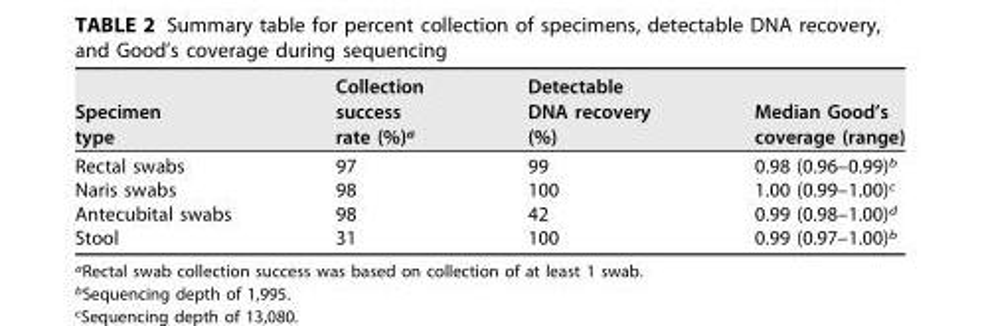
<table><thead><tr><td>Specimen type</td><td>Collection success rate (%)<sup>a</sup></td><td>Detectable DNA recovery (%)</td><td>Median Good’s coverage (range)</td></tr></thead><tbody><tr><td>Rectal swabs</td><td>97</td><td>99</td><td>0.98 (0.96–0.99)<sup>b</sup></td></tr><tr><td>Naris swabs</td><td>98</td><td>100</td><td>1.00 (0.99–1.00)<sup>c</sup></td></tr><tr><td>Antecubital swabs</td><td>98</td><td>42</td><td>0.99 (0.98–1.00)<sup>d</sup></td></tr><tr><td>Stool</td><td>31</td><td>100</td><td>0.99 (0.97–1.00)<sup>b</sup></td></tr></tbody></table>